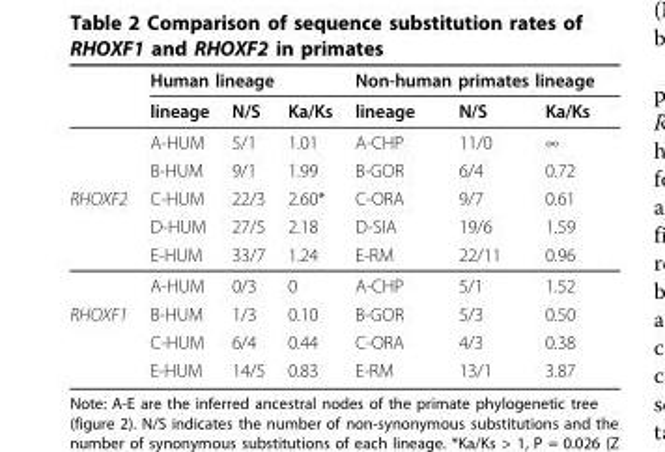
<table><thead><tr><td rowspan="2"></td><td colspan="3">Human lineage</td><td colspan="3">Non-human primates lineage</td></tr><tr><td>lineage</td><td>N/S</td><td>Ka/Ks</td><td>lineage</td><td>N/S</td><td>Ka/Ks</td></tr></thead><tbody><tr><td></td><td>A-HUM</td><td>5/1</td><td>1.01</td><td>A-CHP</td><td>11/0</td><td>∞</td></tr><tr><td></td><td>B-HUM</td><td>9/1</td><td>1.99</td><td>B-GOR</td><td>6/4</td><td>0.72</td></tr><tr><td rowspan="4">RHOXF2</td><td>C-HUM</td><td>22/3</td><td>2.60*</td><td>C-ORA</td><td>9/7</td><td>0.61</td></tr><tr><td>D-HUM</td><td>27/5</td><td>2.18</td><td>D-SIA</td><td>19/6</td><td>1.59</td></tr><tr><td>E-HUM</td><td>33/7</td><td>1.24</td><td>E-RM</td><td>22/11</td><td>0.96</td></tr><tr><td>A-HUM</td><td>0/3</td><td>0</td><td>A-CHP</td><td>5/1</td><td>1.52</td></tr><tr><td rowspan="3">RHOXF1</td><td>B-HUM</td><td>1/3</td><td>0.10</td><td>B-GOR</td><td>5/3</td><td>0.50</td></tr><tr><td>C-HUM</td><td>6/4</td><td>0.44</td><td>C-ORA</td><td>4/3</td><td>0.38</td></tr><tr><td>E-HUM</td><td>14/5</td><td>0.83</td><td>E-RM</td><td>13/1</td><td>3.87</td></tr></tbody></table>